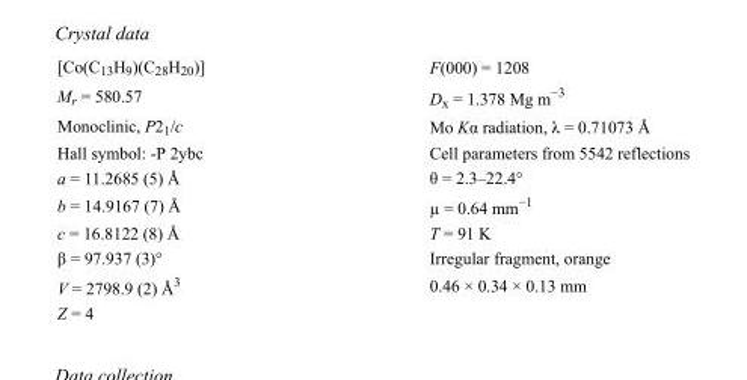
<table><tbody><tr><td>[Co(C<sub>13</sub>H<sub>9</sub>)(C<sub>28</sub>H<sub>20</sub>)]</td><td>F(000) = 1208</td></tr><tr><td>M<sub>r</sub> = 580.57</td><td>D<sub>x</sub> = 1.378 Mg m<sup>−3</sup></td></tr><tr><td>Monoclinic, P2<sub>1</sub>/c</td><td>Mo Kα radiation, λ = 0.71073 Å</td></tr><tr><td>Hall symbol: -P 2ybc</td><td>Cell parameters from 5542 reflections</td></tr><tr><td>a = 11.2685 (5) Å</td><td>θ = 2.3–22.4°</td></tr><tr><td>b = 14.9167 (7) Å</td><td>µ = 0.64 mm<sup>−1</sup></td></tr><tr><td>c = 16.8122 (8) Å</td><td>T = 91 K</td></tr><tr><td>β = 97.937 (3)°</td><td>Irregular fragment, orange</td></tr><tr><td>V = 2798.9 (2) Å<sup>3</sup></td><td>0.46 × 0.34 × 0.13 mm</td></tr><tr><td>Z = 4</td><td></td></tr></tbody></table>